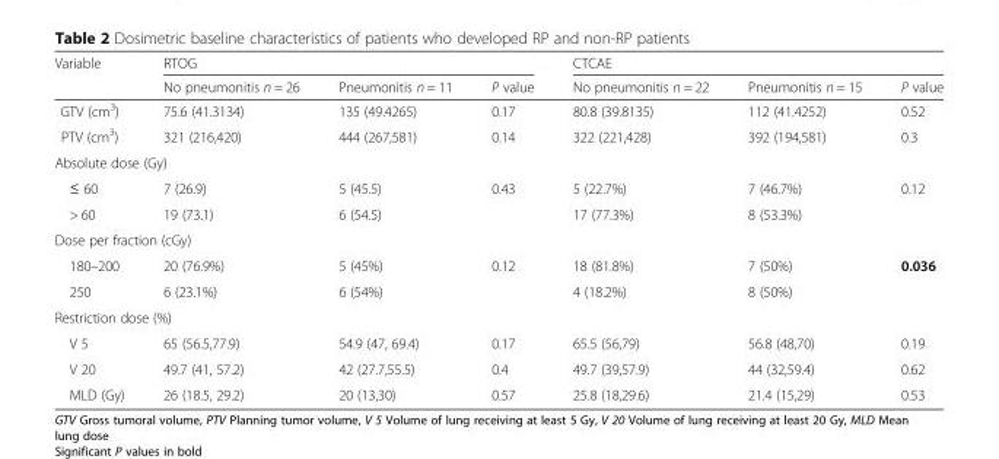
<table><thead><tr><td rowspan="2">Variable</td><td colspan="3">RTOG</td><td colspan="3">CTCAE</td></tr><tr><td>No pneumonitis n = 26</td><td>Pneumonitis n = 11</td><td>P value</td><td>No pneumonitis n = 22</td><td>Pneumonitis n = 15</td><td>P value</td></tr></thead><tbody><tr><td>GTV (cm<sup>3</sup>)</td><td>75.6 (41.3134)</td><td>135 (49.4265)</td><td>0.17</td><td>80.8 (39.8135)</td><td>112 (41.4252)</td><td>0.52</td></tr><tr><td>PTV (cm<sup>3</sup>)</td><td>321 (216,420)</td><td>444 (267,581)</td><td>0.14</td><td>322 (221,428)</td><td>392 (194,581)</td><td>0.3</td></tr><tr><td colspan="7">Absolute dose (Gy)</td></tr><tr><td>≤ 60</td><td>7 (26.9)</td><td>5 (45.5)</td><td rowspan="2">0.43</td><td>5 (22.7%)</td><td>7 (46.7%)</td><td rowspan="2">0.12</td></tr><tr><td>&gt; 60</td><td>19 (73.1)</td><td>6 (54.5)</td><td>17 (77.3%)</td><td>8 (53.3%)</td></tr><tr><td colspan="7">Dose per fraction (cGy)</td></tr><tr><td>180–200</td><td>20 (76.9%)</td><td>5 (45%)</td><td rowspan="2">0.12</td><td>18 (81.8%)</td><td>7 (50%)</td><td rowspan="2">0.036</td></tr><tr><td>250</td><td>6 (23.1%)</td><td>6 (54%)</td><td>4 (18.2%)</td><td>8 (50%)</td></tr><tr><td colspan="7">Restriction dose (%)</td></tr><tr><td>V 5</td><td>65 (56.5,77.9)</td><td>54.9 (47, 69.4)</td><td>0.17</td><td>65.5 (56,79)</td><td>56.8 (48,70)</td><td>0.19</td></tr><tr><td>V 20</td><td>49.7 (41, 57.2)</td><td>42 (27.7,55.5)</td><td>0.4</td><td>49.7 (39,57.9)</td><td>44 (32,59.4)</td><td>0.62</td></tr><tr><td>MLD (Gy)</td><td>26 (18.5, 29.2)</td><td>20 (13,30)</td><td>0.57</td><td>25.8 (18,29.6)</td><td>21.4 (15,29)</td><td>0.53</td></tr></tbody></table>